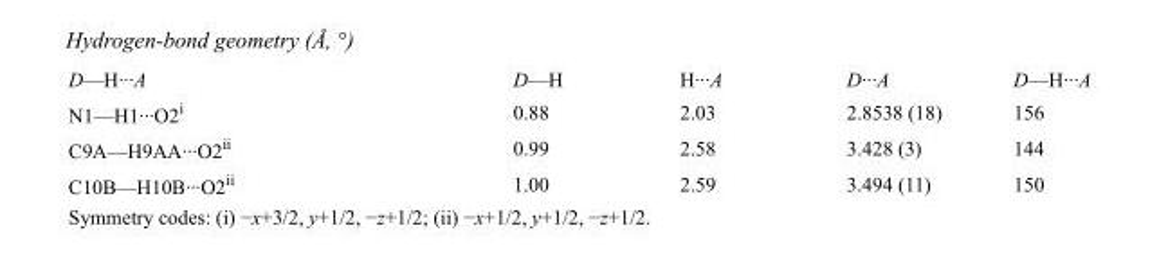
<table><tbody><tr><td>D—H···A</td><td>D—H</td><td>H···A</td><td>D···A</td><td>D—H···A</td></tr><tr><td>N1—H1···O2<sup>i</sup></td><td>0.88</td><td>2.03</td><td>2.8538 (18)</td><td>156</td></tr><tr><td>C9A—H9AA···O2<sup>ii</sup></td><td>0.99</td><td>2.58</td><td>3.428 (3)</td><td>144</td></tr><tr><td>C10B—H10B···O2<sup>ii</sup></td><td>1.00</td><td>2.59</td><td>3.494 (11)</td><td>150</td></tr></tbody></table>